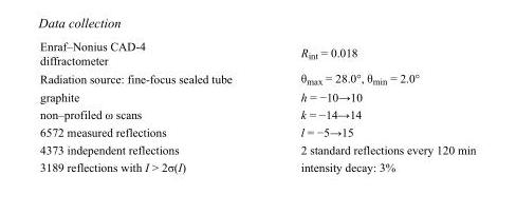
<table><tbody><tr><td>Enraf–Nonius CAD-4 diffractometer</td><td>R<sub>int</sub> = 0.018</td></tr><tr><td>Radiation source: fine-focus sealed tube</td><td>θ<sub>max</sub> = 28.0°, θ<sub>min</sub> = 2.0°</td></tr><tr><td>graphite</td><td>h = −10→10</td></tr><tr><td>non–profiled ω scans</td><td>k = −14→14</td></tr><tr><td>6572 measured reflections</td><td>l = −5→15</td></tr><tr><td>4373 independent reflections</td><td>2 standard reflections every 120 min</td></tr><tr><td>3189 reflections with I &gt; 2σ(I)</td><td>intensity decay: 3%</td></tr></tbody></table>